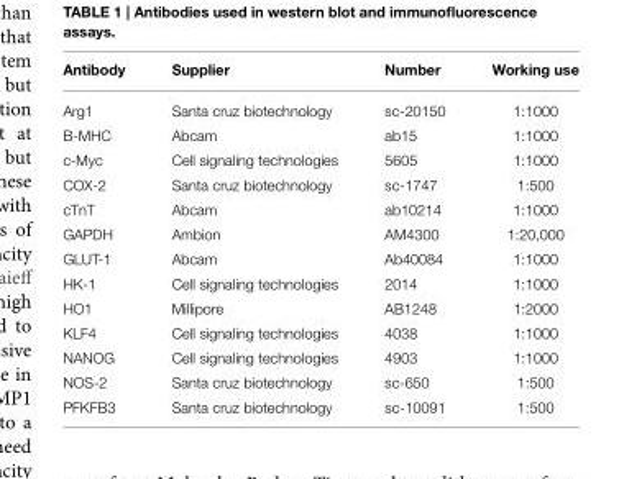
<table><thead><tr><td>Antibody</td><td>Supplier</td><td>Number</td><td>Working use</td></tr></thead><tbody><tr><td>Arg1</td><td>Santa cruz biotechnology</td><td>sc-20150</td><td>1:1000</td></tr><tr><td>B-MHC</td><td>Abcam</td><td>ab15</td><td>1:1000</td></tr><tr><td>c-Myc</td><td>Cell signaling technologies</td><td>5605</td><td>1:1000</td></tr><tr><td>COX-2</td><td>Santa cruz biotechnology</td><td>sc-1747</td><td>1:500</td></tr><tr><td>cTnT</td><td>Abcam</td><td>ab10214</td><td>1:1000</td></tr><tr><td>GAPDH</td><td>Ambion</td><td>AM4300</td><td>1:20,000</td></tr><tr><td>GLUT-1</td><td>Abcam</td><td>Ab40084</td><td>1:1000</td></tr><tr><td>HK-1</td><td>Cell signaling technologies</td><td>2014</td><td>1:1000</td></tr><tr><td>HO1</td><td>Millipore</td><td>AB1248</td><td>1:2000</td></tr><tr><td>KLF4</td><td>Cell signaling technologies</td><td>4038</td><td>1:1000</td></tr><tr><td>NANOG</td><td>Cell signaling technologies</td><td>4903</td><td>1:1000</td></tr><tr><td>NOS-2</td><td>Santa cruz biotechnology</td><td>sc-650</td><td>1:500</td></tr><tr><td>PFKFB3</td><td>Santa cruz biotechnology</td><td>sc-10091</td><td>1:500</td></tr></tbody></table>